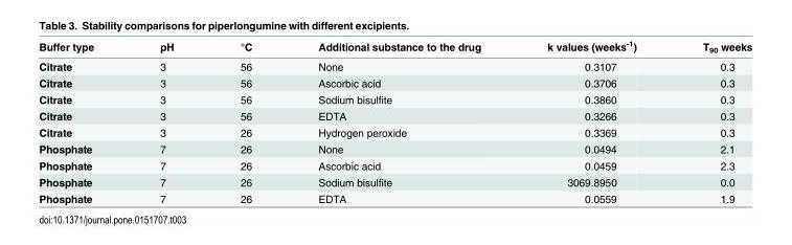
<table><thead><tr><td>Buffer type</td><td>pH</td><td>°C</td><td>Additional substance to the drug</td><td>k values (weeks<sup>-1</sup>)</td><td>T<sub>90</sub> weeks</td></tr></thead><tbody><tr><td>Citrate</td><td>3</td><td>56</td><td>None</td><td>0.3107</td><td>0.3</td></tr><tr><td>Citrate</td><td>3</td><td>56</td><td>Ascorbic acid</td><td>0.3706</td><td>0.3</td></tr><tr><td>Citrate</td><td>3</td><td>56</td><td>Sodium bisulfite</td><td>0.3860</td><td>0.3</td></tr><tr><td>Citrate</td><td>3</td><td>56</td><td>EDTA</td><td>0.3266</td><td>0.3</td></tr><tr><td>Citrate</td><td>3</td><td>26</td><td>Hydrogen peroxide</td><td>0.3369</td><td>0.3</td></tr><tr><td>Phosphate</td><td>7</td><td>26</td><td>None</td><td>0.0494</td><td>2.1</td></tr><tr><td>Phosphate</td><td>7</td><td>26</td><td>Ascorbic acid</td><td>0.0459</td><td>2.3</td></tr><tr><td>Phosphate</td><td>7</td><td>26</td><td>Sodium bisulfite</td><td>3069.8950</td><td>0.0</td></tr><tr><td>Phosphate</td><td>7</td><td>26</td><td>EDTA</td><td>0.0559</td><td>1.9</td></tr></tbody></table>